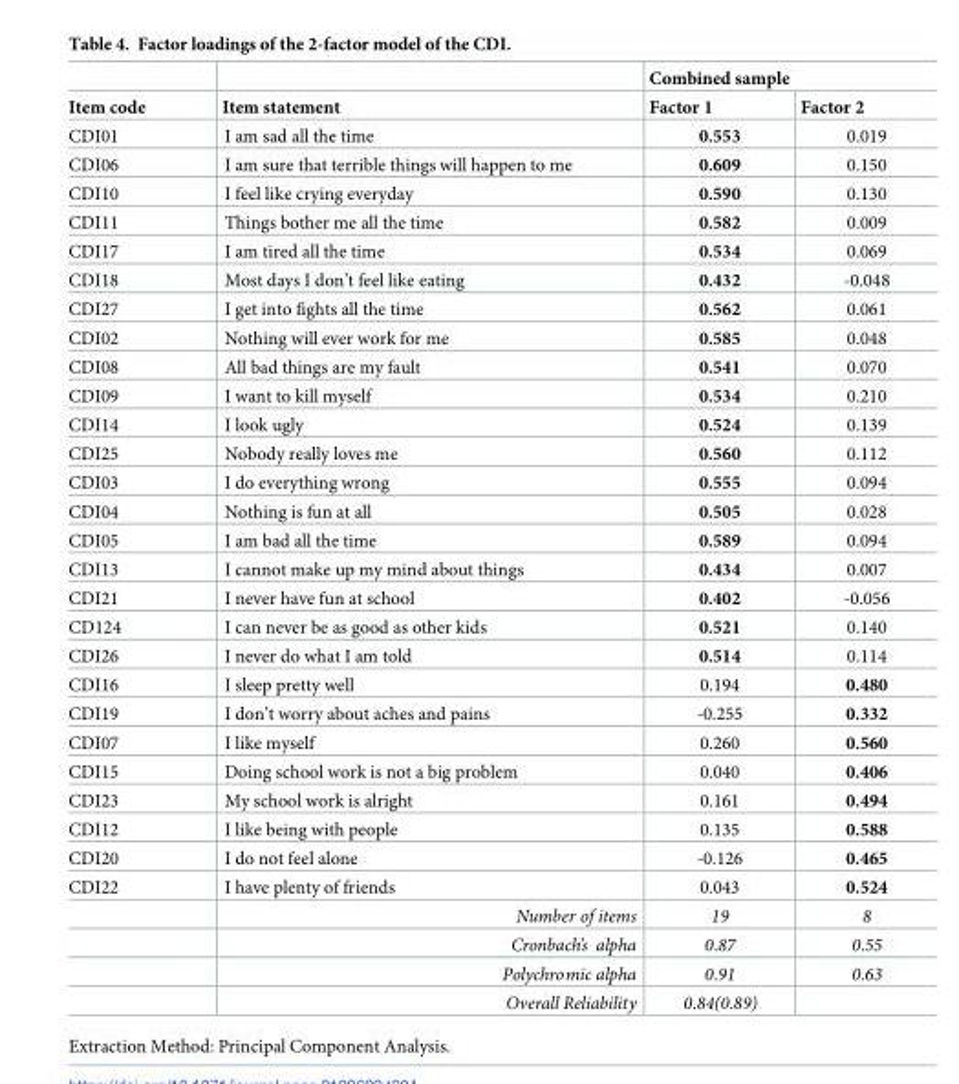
<table><thead><tr><td rowspan="2">Item code</td><td rowspan="2">Item statement</td><td colspan="2">Combined sample</td></tr><tr><td>Factor 1</td><td>Factor 2</td></tr></thead><tbody><tr><td>CDI01</td><td>I am sad all the time</td><td>0.553</td><td>0.019</td></tr><tr><td>CDI06</td><td>I am sure that terrible things will happen to me</td><td>0.609</td><td>0.150</td></tr><tr><td>CDI10</td><td>I feel like crying everyday</td><td>0.590</td><td>0.130</td></tr><tr><td>CDI11</td><td>Things bother me all the time</td><td>0.582</td><td>0.009</td></tr><tr><td>CDI17</td><td>I am tired all the time</td><td>0.534</td><td>0.069</td></tr><tr><td>CDI18</td><td>Most days I don’t feel like eating</td><td>0.432</td><td>-0.048</td></tr><tr><td>CDI27</td><td>I get into fights all the time</td><td>0.562</td><td>0.061</td></tr><tr><td>CDI02</td><td>Nothing will ever work for me</td><td>0.585</td><td>0.048</td></tr><tr><td>CDI08</td><td>All bad things are my fault</td><td>0.541</td><td>0.070</td></tr><tr><td>CDI09</td><td>I want to kill myself</td><td>0.534</td><td>0.210</td></tr><tr><td>CDI14</td><td>I look ugly</td><td>0.524</td><td>0.139</td></tr><tr><td>CDI25</td><td>Nobody really loves me</td><td>0.560</td><td>0.112</td></tr><tr><td>CDI03</td><td>I do everything wrong</td><td>0.555</td><td>0.094</td></tr><tr><td>CDI04</td><td>Nothing is fun at all</td><td>0.505</td><td>0.028</td></tr><tr><td>CDI05</td><td>I am bad all the time</td><td>0.589</td><td>0.094</td></tr><tr><td>CDI13</td><td>I cannot make up my mind about things</td><td>0.434</td><td>0.007</td></tr><tr><td>CDI21</td><td>I never have fun at school</td><td>0.402</td><td>-0.056</td></tr><tr><td>CD124</td><td>I can never be as good as other kids</td><td>0.521</td><td>0.140</td></tr><tr><td>CDI26</td><td>I never do what I am told</td><td>0.514</td><td>0.114</td></tr><tr><td>CDI16</td><td>I sleep pretty well</td><td>0.194</td><td>0.480</td></tr><tr><td>CDI19</td><td>I don’t worry about aches and pains</td><td>-0.255</td><td>0.332</td></tr><tr><td>CDI07</td><td>I like myself</td><td>0.260</td><td>0.560</td></tr><tr><td>CDI15</td><td>Doing school work is not a big problem</td><td>0.040</td><td>0.406</td></tr><tr><td>CDI23</td><td>My school work is alright</td><td>0.161</td><td>0.494</td></tr><tr><td>CDI12</td><td>I like being with people</td><td>0.135</td><td>0.588</td></tr><tr><td>CDI20</td><td>I do not feel alone</td><td>-0.126</td><td>0.465</td></tr><tr><td rowspan="5">CDI22</td><td>I have plenty of friends</td><td>0.043</td><td>0.524</td></tr><tr><td>Number of items</td><td>19</td><td>8</td></tr><tr><td>Cronbach’s alpha</td><td>0.87</td><td>0.55</td></tr><tr><td>Polychromic alpha</td><td>0.91</td><td>0.63</td></tr><tr><td>Overall Reliability</td><td>0.84(0.89)</td><td></td></tr></tbody></table>